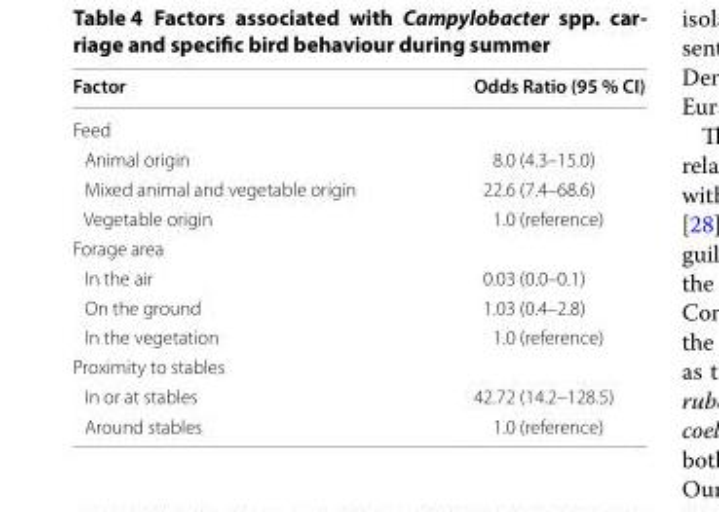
<table><thead><tr><td>Factor</td><td>Odds Ratio (95 % CI)</td></tr></thead><tbody><tr><td colspan="2">Feed</td></tr><tr><td>Animal origin</td><td>8.0 (4.3–15.0)</td></tr><tr><td>Mixed animal and vegetable origin</td><td>22.6 (7.4–68.6)</td></tr><tr><td>Vegetable origin</td><td>1.0 (reference)</td></tr><tr><td colspan="2">Forage area</td></tr><tr><td>In the air</td><td>0.03 (0.0–0.1)</td></tr><tr><td>On the ground</td><td>1.03 (0.4–2.8)</td></tr><tr><td>In the vegetation</td><td>1.0 (reference)</td></tr><tr><td colspan="2">Proximity to stables</td></tr><tr><td>In or at stables</td><td>42.72 (14.2–128.5)</td></tr><tr><td>Around stables</td><td>1.0 (reference)</td></tr></tbody></table>